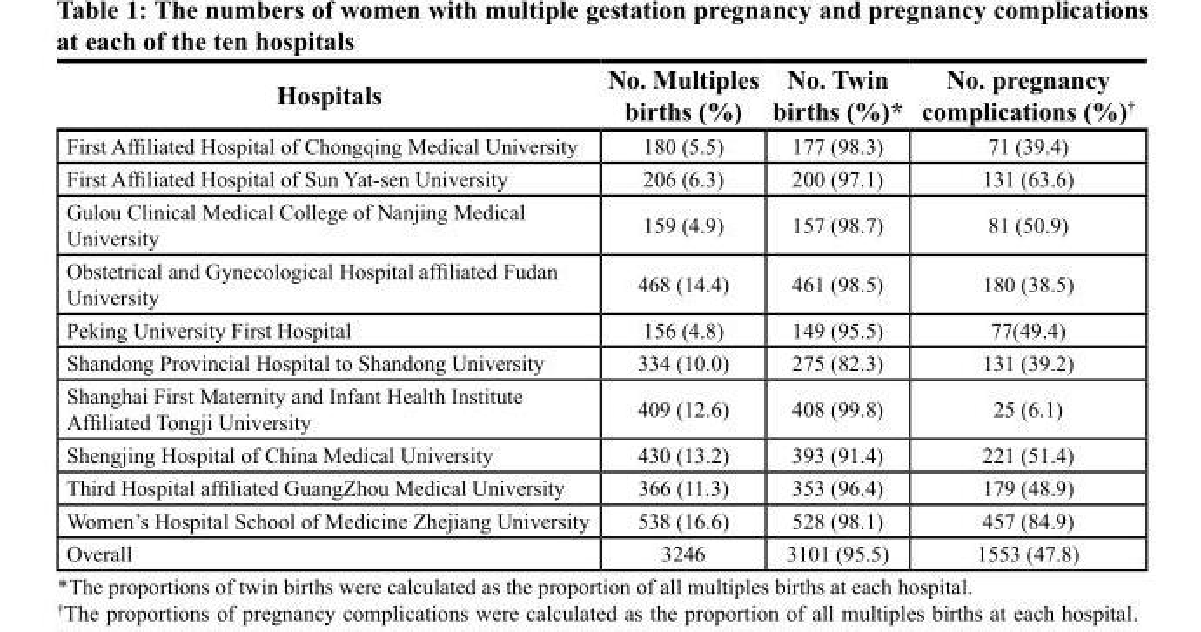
<table><thead><tr><td>Hospitals</td><td>No. Multiples births (%)</td><td>No. Twin births (%)*</td><td>No. pregnancy complications (%)<sup>†</sup></td></tr></thead><tbody><tr><td>First Affiliated Hospital of Chongqing Medical University</td><td>180 (5.5)</td><td>177 (98.3)</td><td>71 (39.4)</td></tr><tr><td>First Affiliated Hospital of Sun Yat-sen University</td><td>206 (6.3)</td><td>200 (97.1)</td><td>131 (63.6)</td></tr><tr><td>Gulou Clinical Medical College of Nanjing Medical University</td><td>159 (4.9)</td><td>157 (98.7)</td><td>81 (50.9)</td></tr><tr><td>Obstetrical and Gynecological Hospital affiliated Fudan University</td><td>468 (14.4)</td><td>461 (98.5)</td><td>180 (38.5)</td></tr><tr><td>Peking University First Hospital</td><td>156 (4.8)</td><td>149 (95.5)</td><td>77(49.4)</td></tr><tr><td>Shandong Provincial Hospital to Shandong University</td><td>334 (10.0)</td><td>275 (82.3)</td><td>131 (39.2)</td></tr><tr><td>Shanghai First Maternity and Infant Health Institute Affiliated Tongji University</td><td>409 (12.6)</td><td>408 (99.8)</td><td>25 (6.1)</td></tr><tr><td>Shengjing Hospital of China Medical University</td><td>430 (13.2)</td><td>393 (91.4)</td><td>221 (51.4)</td></tr><tr><td>Third Hospital affiliated GuangZhou Medical University</td><td>366 (11.3)</td><td>353 (96.4)</td><td>179 (48.9)</td></tr><tr><td>Women’s Hospital School of Medicine Zhejiang University</td><td>538 (16.6)</td><td>528 (98.1)</td><td>457 (84.9)</td></tr><tr><td>Overall</td><td>3246</td><td>3101 (95.5)</td><td>1553 (47.8)</td></tr></tbody></table>